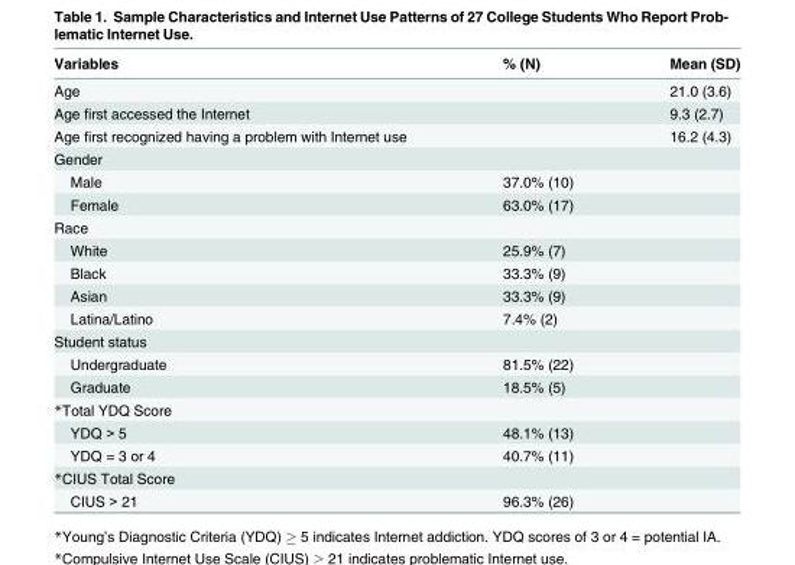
<table><thead><tr><td>Variables</td><td>% (N)</td><td>Mean (SD)</td></tr></thead><tbody><tr><td>Age</td><td></td><td>21.0 (3.6)</td></tr><tr><td>Age first accessed the Internet</td><td></td><td>9.3 (2.7)</td></tr><tr><td>Age first recognized having a problem with Internet use</td><td></td><td>16.2 (4.3)</td></tr><tr><td colspan="3">Gender</td></tr><tr><td>Male</td><td>37.0% (10)</td><td></td></tr><tr><td>Female</td><td>63.0% (17)</td><td></td></tr><tr><td colspan="3">Race</td></tr><tr><td>White</td><td>25.9% (7)</td><td></td></tr><tr><td>Black</td><td>33.3% (9)</td><td></td></tr><tr><td>Asian</td><td>33.3% (9)</td><td></td></tr><tr><td>Latina/Latino</td><td>7.4% (2)</td><td></td></tr><tr><td colspan="3">Student status</td></tr><tr><td>Undergraduate</td><td>81.5% (22)</td><td></td></tr><tr><td>Graduate</td><td>18.5% (5)</td><td></td></tr><tr><td colspan="3">*Total YDQ Score</td></tr><tr><td>YDQ &gt; 5</td><td>48.1% (13)</td><td></td></tr><tr><td>YDQ = 3 or 4</td><td>40.7% (11)</td><td></td></tr><tr><td colspan="3">*CIUS Total Score</td></tr><tr><td>CIUS &gt; 21</td><td>96.3% (26)</td><td></td></tr></tbody></table>